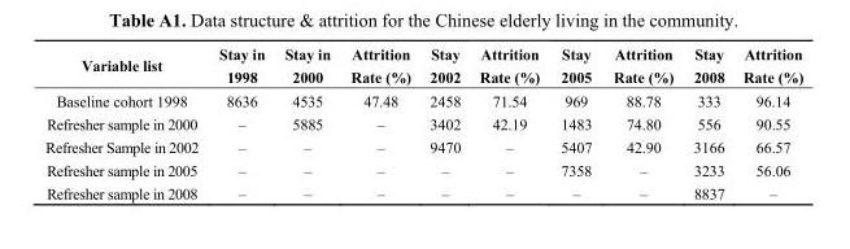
<table><thead><tr><td>Variable list</td><td>Stay in 1998</td><td>Stay in 2000</td><td>Attrition Rate (%)</td><td>Stay 2002</td><td>Attrition Rate (%)</td><td>Stay 2005</td><td>Attrition Rate (%)</td><td>Stay 2008</td><td>Attrition Rate (%)</td></tr></thead><tbody><tr><td>Baseline cohort 1998</td><td>8636</td><td>4535</td><td>47.48</td><td>2458</td><td>71.54</td><td>969</td><td>88.78</td><td>333</td><td>96.14</td></tr><tr><td>Refresher sample in 2000</td><td>–</td><td>5885</td><td>–</td><td>3402</td><td>42.19</td><td>1483</td><td>74.80</td><td>556</td><td>90.55</td></tr><tr><td>Refresher Sample in 2002</td><td>–</td><td>–</td><td>–</td><td>9470</td><td>–</td><td>5407</td><td>42.90</td><td>3166</td><td>66.57</td></tr><tr><td>Refresher sample in 2005</td><td>–</td><td>–</td><td>–</td><td>–</td><td>–</td><td>7358</td><td>–</td><td>3233</td><td>56.06</td></tr><tr><td>Refresher sample in 2008</td><td>–</td><td>–</td><td>–</td><td>–</td><td>–</td><td>–</td><td>–</td><td>8837</td><td>–</td></tr></tbody></table>